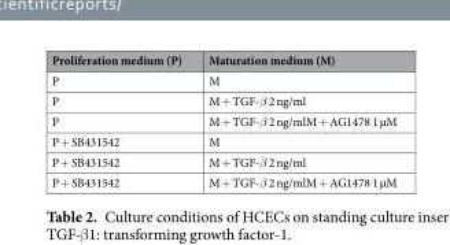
<table><thead><tr><td>Proliferation medium (P)</td><td>Maturation medium (M)</td></tr></thead><tbody><tr><td>P</td><td>M</td></tr><tr><td>P</td><td>M + TGF-β 2 ng/ml</td></tr><tr><td>P</td><td>M + TGF-β 2 ng/mlM + AG1478 1 µM</td></tr><tr><td>P + SB431542</td><td>M</td></tr><tr><td>P + SB431542</td><td>M + TGF-β 2 ng/ml</td></tr><tr><td>P + SB431542</td><td>M + TGF-β 2 ng/mlM + AG1478 1 µM</td></tr></tbody></table>